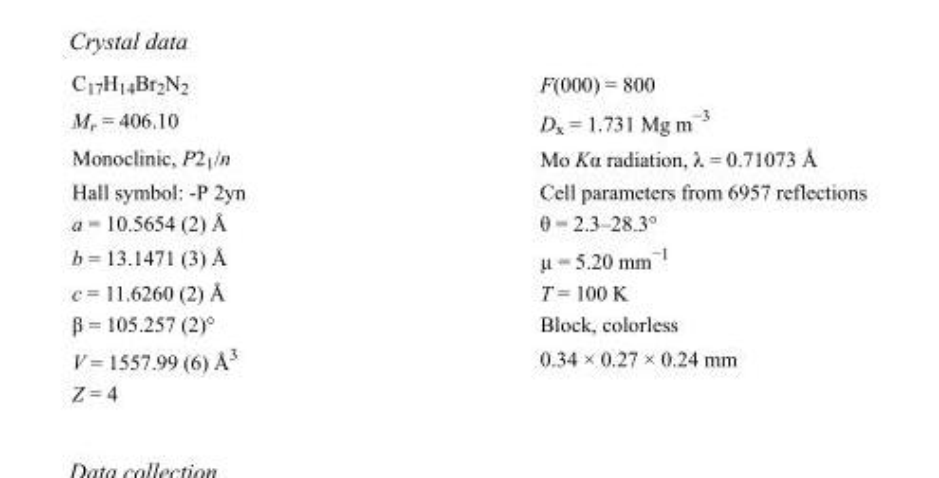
<table><tbody><tr><td>C<sub>17</sub>H<sub>14</sub>Br<sub>2</sub>N<sub>2</sub></td><td>F(000) = 800</td></tr><tr><td>M<sub>r</sub> = 406.10</td><td>D<sub>x</sub> = 1.731 Mg m<sup>−3</sup></td></tr><tr><td>Monoclinic, P2<sub>1</sub>/n</td><td>Mo Kα radiation, λ = 0.71073 Å</td></tr><tr><td>Hall symbol: -P 2yn</td><td>Cell parameters from 6957 reflections</td></tr><tr><td>a = 10.5654 (2) Å</td><td>θ = 2.3–28.3°</td></tr><tr><td>b = 13.1471 (3) Å</td><td>µ = 5.20 mm<sup>−1</sup></td></tr><tr><td>c = 11.6260 (2) Å</td><td>T = 100 K</td></tr><tr><td>β = 105.257 (2)°</td><td>Block, colorless</td></tr><tr><td>V = 1557.99 (6) Å<sup>3</sup></td><td>0.34 × 0.27 × 0.24 mm</td></tr><tr><td>Z = 4</td><td></td></tr></tbody></table>